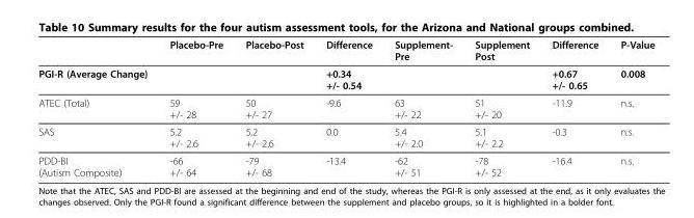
<table><thead><tr><td></td><td>Placebo-Pre</td><td>Placebo-Post</td><td>Difference</td><td>Supplement- Pre</td><td>Supplement Post</td><td>Difference</td><td>P-Value</td></tr></thead><tbody><tr><td>PGI-R (Average Change)</td><td></td><td></td><td>+0.34 +/- 0.54</td><td></td><td></td><td>+0.67 +/- 0.65</td><td>0.008</td></tr><tr><td>ATEC (Total)</td><td>59 +/- 28</td><td>50 +/- 27</td><td>-9.6</td><td>63 +/- 22</td><td>51 +/- 20</td><td>-11.9</td><td>n.s.</td></tr><tr><td>SAS</td><td>5.2 +/- 2.6</td><td>5.2 +/- 2.6</td><td>0.0</td><td>5.4 +/- 2.0</td><td>5.1 +/- 2.2</td><td>-0.3</td><td>n.s.</td></tr><tr><td>PDD-BI (Autism Composite)</td><td>-66 +/- 64</td><td>-79 +/- 68</td><td>-13.4</td><td>-62 +/- 51</td><td>-78 +/- 52</td><td>-16.4</td><td>n.s.</td></tr></tbody></table>